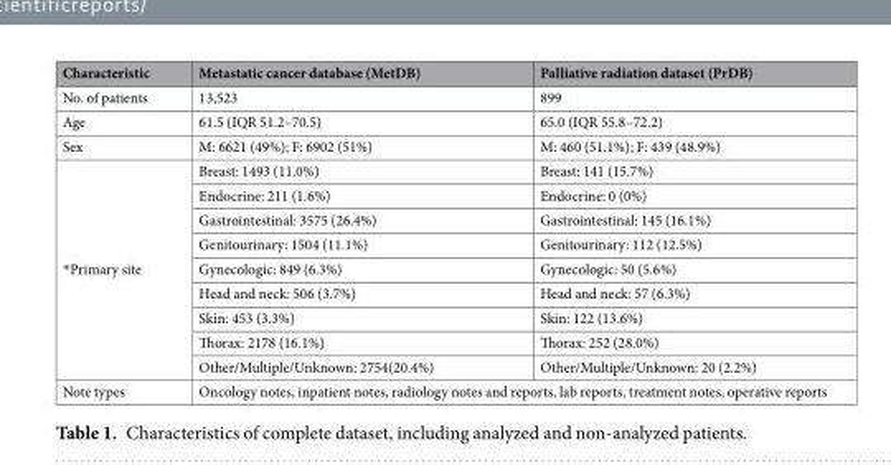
<table><thead><tr><td>Characteristic</td><td>Metastatic cancer database (MetDB)</td><td>Palliative radiation dataset (PrDB)</td></tr></thead><tbody><tr><td>No. of patients</td><td>13,523</td><td>899</td></tr><tr><td>Age</td><td>61.5 (IQR 51.2–70.5)</td><td>65.0 (IQR 55.8–72.2)</td></tr><tr><td>Sex</td><td>M: 6621 (49%); F: 6902 (51%)</td><td>M: 460 (51.1%); F: 439 (48.9%)</td></tr><tr><td rowspan="9">*Primary site</td><td>Breast: 1493 (11.0%)</td><td>Breast: 141 (15.7%)</td></tr><tr><td>Endocrine: 211 (1.6%)</td><td>Endocrine: 0 (0%)</td></tr><tr><td>Gastrointestinal: 3575 (26.4%)</td><td>Gastrointestinal: 145 (16.1%)</td></tr><tr><td>Genitourinary: 1504 (11.1%)</td><td>Genitourinary: 112 (12.5%)</td></tr><tr><td>Gynecologic: 849 (6.3%)</td><td>Gynecologic: 50 (5.6%)</td></tr><tr><td>Head and neck: 506 (3.7%)</td><td>Head and neck: 57 (6.3%)</td></tr><tr><td>Skin: 453 (3.3%)</td><td>Skin: 122 (13.6%)</td></tr><tr><td>Thorax: 2178 (16.1%)</td><td>Thorax: 252 (28.0%)</td></tr><tr><td>Other/Multiple/Unknown: 2754(20.4%)</td><td>Other/Multiple/Unknown: 20 (2.2%)</td></tr><tr><td>Note types</td><td colspan="2">Oncology notes, inpatient notes, radiology notes and reports, lab reports, treatment notes, operative reports</td></tr></tbody></table>